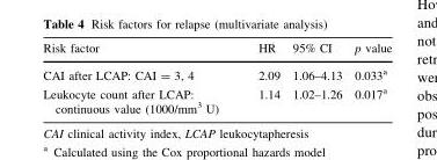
<table><thead><tr><td>Risk factor</td><td>HR</td><td>95% CI</td><td>p value</td></tr></thead><tbody><tr><td>CAI after LCAP: CAI = 3, 4</td><td>2.09</td><td>1.06–4.13</td><td>0.033<sup>a</sup></td></tr><tr><td>Leukocyte count after LCAP: continuous value (1000/mm<sup>3</sup> U)</td><td>1.14</td><td>1.02–1.26</td><td>0.017<sup>a</sup></td></tr></tbody></table>